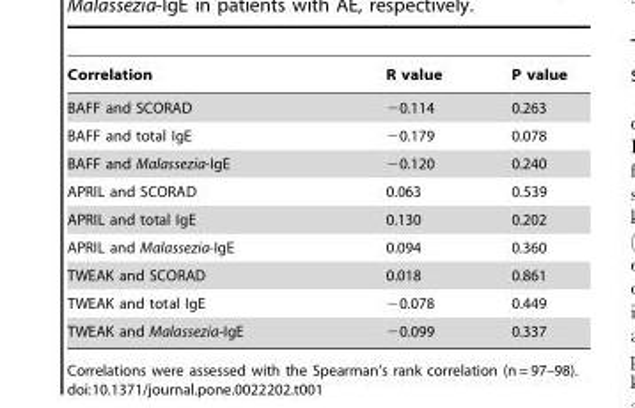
<table><thead><tr><td>Correlation</td><td>R value</td><td>P value</td></tr></thead><tbody><tr><td>BAFF and SCORAD</td><td>−0.114</td><td>0.263</td></tr><tr><td>BAFF and total IgE</td><td>−0.179</td><td>0.078</td></tr><tr><td>BAFF and Malassezia-IgE</td><td>−0.120</td><td>0.240</td></tr><tr><td>APRIL and SCORAD</td><td>0.063</td><td>0.539</td></tr><tr><td>APRIL and total IgE</td><td>0.130</td><td>0.202</td></tr><tr><td>APRIL and Malassezia-IgE</td><td>0.094</td><td>0.360</td></tr><tr><td>TWEAK and SCORAD</td><td>0.018</td><td>0.861</td></tr><tr><td>TWEAK and total IgE</td><td>−0.078</td><td>0.449</td></tr><tr><td>TWEAK and Malassezia-IgE</td><td>−0.099</td><td>0.337</td></tr></tbody></table>